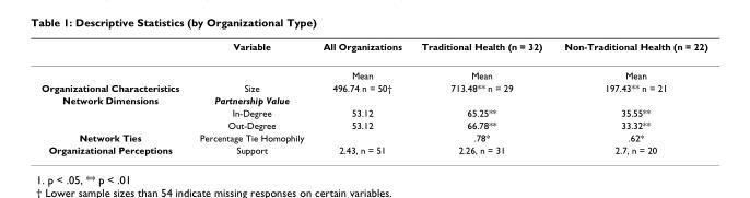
<table><thead><tr><td></td><td>Variable</td><td>All Organizations</td><td>Traditional Health (n = 32)</td><td>Non-Traditional Health (n = 22)</td></tr></thead><tbody><tr><td></td><td></td><td>Mean</td><td>Mean</td><td>Mean</td></tr><tr><td>Organizational Characteristics</td><td>Size</td><td>496.74 n = 50†</td><td>713.48** n = 29</td><td>197.43** n = 21</td></tr><tr><td rowspan="3">Network Dimensions</td><td>Partnership Value</td><td></td><td></td><td></td></tr><tr><td>In-Degree</td><td>53.12</td><td>65.25**</td><td>35.55**</td></tr><tr><td>Out-Degree</td><td>53.12</td><td>66.78**</td><td>33.32**</td></tr><tr><td>Network Ties</td><td>Percentage Tie Homophily</td><td></td><td>.78*</td><td>.62*</td></tr><tr><td>Organizational Perceptions</td><td>Support</td><td>2.43, n = 51</td><td>2.26, n = 31</td><td>2.7, n = 20</td></tr></tbody></table>